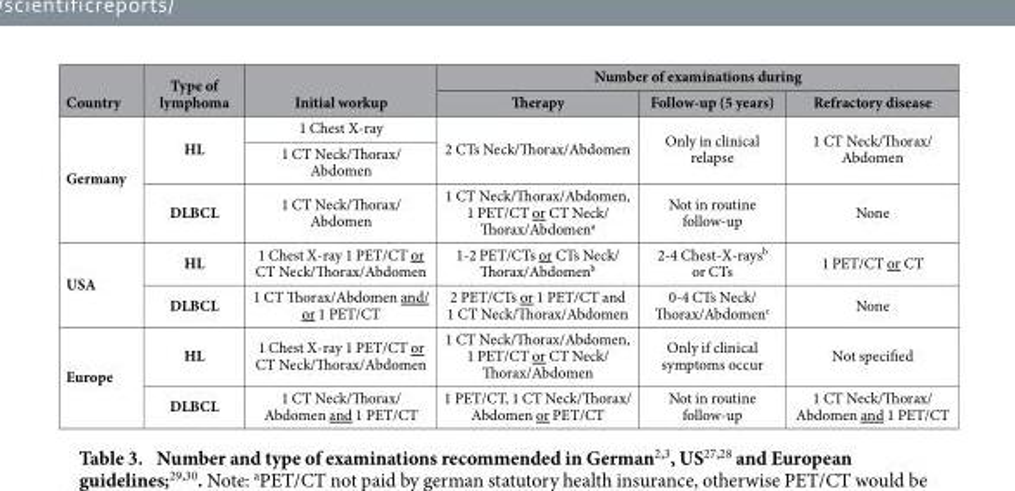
<table><thead><tr><td rowspan="2">Country</td><td rowspan="2">Type of lymphoma</td><td rowspan="2">Initial workup</td><td colspan="3">Number of examinations during</td></tr><tr><td>Therapy</td><td>Follow-up (5 years)</td><td>Refractory disease</td></tr></thead><tbody><tr><td rowspan="3">Germany</td><td rowspan="2">HL</td><td>1 Chest X-ray</td><td rowspan="2">2 CTs Neck/Thorax/Abdomen</td><td rowspan="2">Only in clinical relapse</td><td rowspan="2">1 CT Neck/Thorax/ Abdomen</td></tr><tr><td>1 CT Neck/Thorax/ Abdomen</td></tr><tr><td>DLBCL</td><td>1 CT Neck/Thorax/ Abdomen</td><td>1 CT Neck/Thorax/Abdomen, 1 PET/CT or CT Neck/ Thorax/Abdomen<sup>a</sup></td><td>Not in routine follow-up</td><td>None</td></tr><tr><td rowspan="2">USA</td><td>HL</td><td>1 Chest X-ray 1 PET/CT or CT Neck/Thorax/Abdomen</td><td>1-2 PET/CTs or CTs Neck/ Thorax/Abdomen<sup>b</sup></td><td>2-4 Chest-X-rays<sup>b</sup> or CTs</td><td>1 PET/CT or CT</td></tr><tr><td>DLBCL</td><td>1 CT Thorax/Abdomen and/ or 1 PET/CT</td><td>2 PET/CTs or 1 PET/CT and 1 CT Neck/Thorax/Abdomen</td><td>0-4 CTs Neck/ Thorax/Abdomen<sup>c</sup></td><td>None</td></tr><tr><td rowspan="2">Europe</td><td>HL</td><td>1 Chest X-ray 1 PET/CT or CT Neck/Thorax/Abdomen</td><td>1 CT Neck/Thorax/Abdomen, 1 PET/CT or CT Neck/ Thorax/Abdomen</td><td>Only if clinical symptoms occur</td><td>Not specified</td></tr><tr><td>DLBCL</td><td>1 CT Neck/Thorax/ Abdomen and 1 PET/CT</td><td>1 PET/CT, 1 CT Neck/Thorax/ Abdomen or PET/CT</td><td>Not in routine follow-up</td><td>1 CT Neck/Thorax/ Abdomen and 1 PET/CT</td></tr></tbody></table>